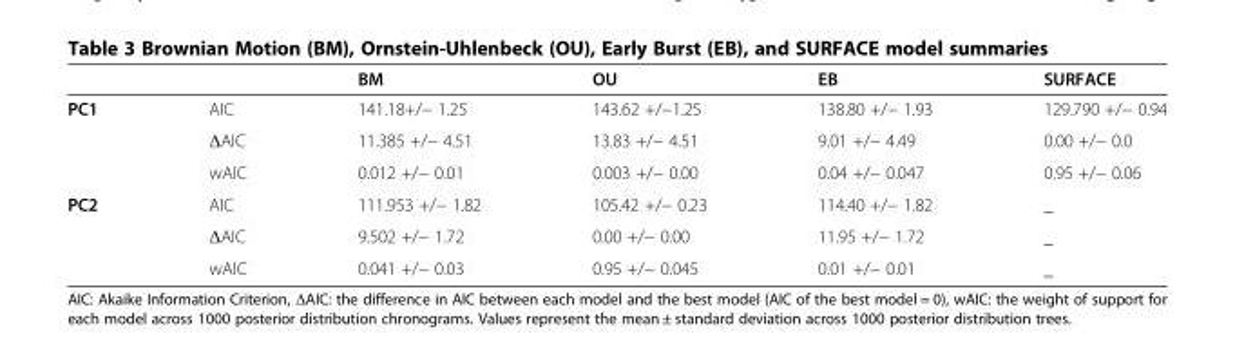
<table><thead><tr><td></td><td></td><td>BM</td><td>OU</td><td>EB</td><td>SURFACE</td></tr></thead><tbody><tr><td rowspan="3">PC1</td><td>AIC</td><td>141.18+/− 1.25</td><td>143.62 +/−1.25</td><td>138.80 +/− 1.93</td><td>129.790 +/− 0.94</td></tr><tr><td>ΔAIC</td><td>11.385 +/− 4.51</td><td>13.83 +/− 4.51</td><td>9.01 +/− 4.49</td><td>0.00 +/− 0.0</td></tr><tr><td>wAIC</td><td>0.012 +/− 0.01</td><td>0.003 +/− 0.00</td><td>0.04 +/− 0.047</td><td>0.95 +/− 0.06</td></tr><tr><td rowspan="3">PC2</td><td>AIC</td><td>111.953 +/− 1.82</td><td>105.42 +/− 0.23</td><td>114.40 +/− 1.82</td><td>_</td></tr><tr><td>ΔAIC</td><td>9.502 +/− 1.72</td><td>0.00 +/− 0.00</td><td>11.95 +/− 1.72</td><td>_</td></tr><tr><td>wAIC</td><td>0.041 +/− 0.03</td><td>0.95 +/− 0.045</td><td>0.01 +/− 0.01</td><td>_</td></tr></tbody></table>